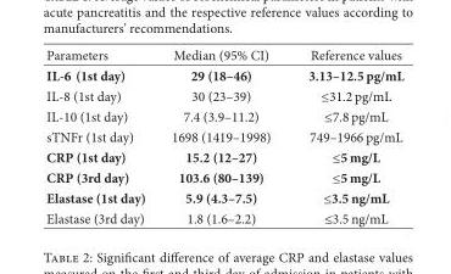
<table><thead><tr><td>Parameters</td><td>Median (95% CI)</td><td>Reference values</td></tr></thead><tbody><tr><td>IL-6 (1st day)</td><td>29 (18–46)</td><td>3.13–12.5 pg/mL</td></tr><tr><td>IL-8 (1st day)</td><td>30 (23–39)</td><td>≤31.2 pg/mL</td></tr><tr><td>IL-10 (1st day)</td><td>7.4 (3.9–11.2)</td><td>≤7.8 pg/mL</td></tr><tr><td>sTNFr (1st day)</td><td>1698 (1419–1998)</td><td>749–1966 pg/mL</td></tr><tr><td>CRP (1st day)</td><td>15.2 (12–27)</td><td>≤5 mg/L</td></tr><tr><td>CRP (3rd day)</td><td>103.6 (80–139)</td><td>≤5 mg/L</td></tr><tr><td>Elastase (1st day)</td><td>5.9 (4.3–7.5)</td><td>≤3.5 ng/mL</td></tr><tr><td>Elastase (3rd day)</td><td>1.8 (1.6–2.2)</td><td>≤3.5 ng/mL</td></tr></tbody></table>